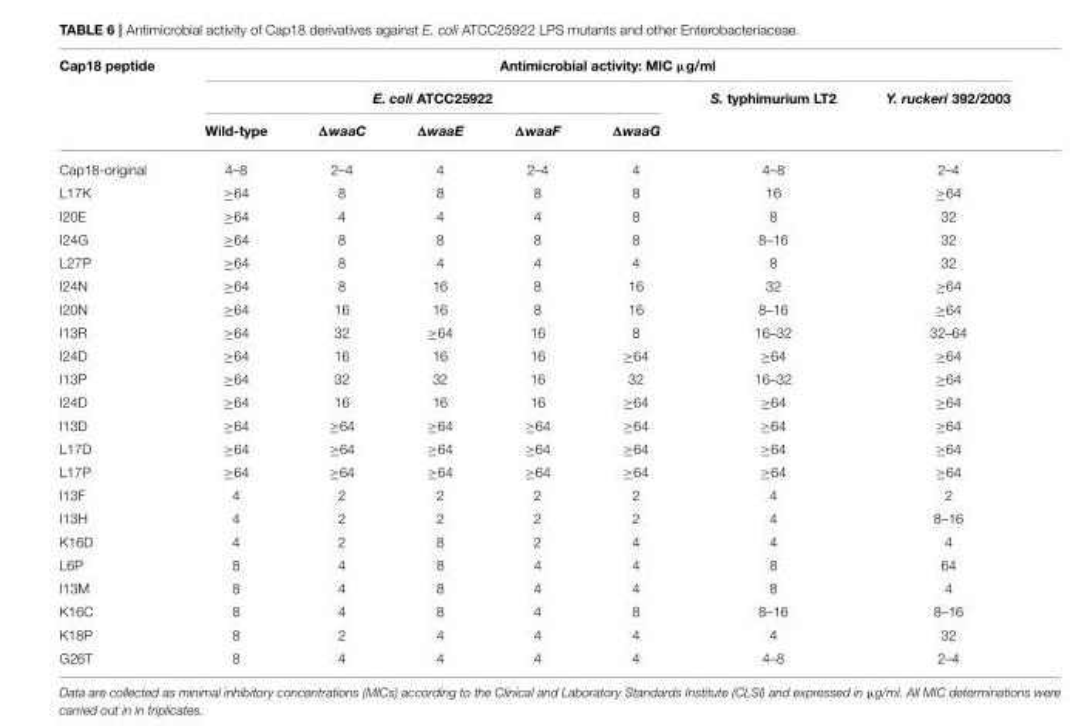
<table><thead><tr><td rowspan="3">Cap18 peptide</td><td colspan="7">Antimicrobial activity: MIC µg/ml</td></tr><tr><td colspan="5">E. coli ATCC25922</td><td rowspan="2">S. typhimurium LT2</td><td rowspan="2">Y. ruckeri 392/2003</td></tr><tr><td>Wild-type</td><td>ΔwaaC</td><td>ΔwaaE</td><td>ΔwaaF</td><td>ΔwaaG</td></tr></thead><tbody><tr><td>Cap18-original</td><td>4–8</td><td>2–4</td><td>4</td><td>2–4</td><td>4</td><td>4–8</td><td>2–4</td></tr><tr><td>L17K</td><td>≥64</td><td>8</td><td>8</td><td>8</td><td>8</td><td>16</td><td>≥64</td></tr><tr><td>I20E</td><td>≥64</td><td>4</td><td>4</td><td>4</td><td>8</td><td>8</td><td>32</td></tr><tr><td>I24G</td><td>≥64</td><td>8</td><td>8</td><td>8</td><td>8</td><td>8–16</td><td>32</td></tr><tr><td>L27P</td><td>≥64</td><td>8</td><td>4</td><td>4</td><td>4</td><td>8</td><td>32</td></tr><tr><td>I24N</td><td>≥64</td><td>8</td><td>16</td><td>8</td><td>16</td><td>32</td><td>≥64</td></tr><tr><td>I20N</td><td>≥64</td><td>16</td><td>16</td><td>8</td><td>16</td><td>8–16</td><td>≥64</td></tr><tr><td>I13R</td><td>≥64</td><td>32</td><td>≥64</td><td>16</td><td>8</td><td>16–32</td><td>32–64</td></tr><tr><td>I24D</td><td>≥64</td><td>16</td><td>16</td><td>16</td><td>≥64</td><td>≥64</td><td>≥64</td></tr><tr><td>I13P</td><td>≥64</td><td>32</td><td>32</td><td>16</td><td>32</td><td>16–32</td><td>≥64</td></tr><tr><td>I24D</td><td>≥64</td><td>16</td><td>16</td><td>16</td><td>≥64</td><td>≥64</td><td>≥64</td></tr><tr><td>I13D</td><td>≥64</td><td>≥64</td><td>≥64</td><td>≥64</td><td>≥64</td><td>≥64</td><td>≥64</td></tr><tr><td>L17D</td><td>≥64</td><td>≥64</td><td>≥64</td><td>≥64</td><td>≥64</td><td>≥64</td><td>≥64</td></tr><tr><td>L17P</td><td>≥64</td><td>≥64</td><td>≥64</td><td>≥64</td><td>≥64</td><td>≥64</td><td>≥64</td></tr><tr><td>I13F</td><td>4</td><td>2</td><td>2</td><td>2</td><td>2</td><td>4</td><td>2</td></tr><tr><td>I13H</td><td>4</td><td>2</td><td>2</td><td>2</td><td>2</td><td>4</td><td>8–16</td></tr><tr><td>K16D</td><td>4</td><td>2</td><td>8</td><td>2</td><td>4</td><td>4</td><td>4</td></tr><tr><td>L6P</td><td>8</td><td>4</td><td>8</td><td>4</td><td>4</td><td>8</td><td>64</td></tr><tr><td>I13M</td><td>8</td><td>4</td><td>8</td><td>4</td><td>4</td><td>8</td><td>4</td></tr><tr><td>K16C</td><td>8</td><td>4</td><td>8</td><td>4</td><td>8</td><td>8–16</td><td>8–16</td></tr><tr><td>K18P</td><td>8</td><td>2</td><td>4</td><td>4</td><td>4</td><td>4</td><td>32</td></tr><tr><td>G26T</td><td>8</td><td>4</td><td>4</td><td>4</td><td>4</td><td>4–8</td><td>2–4</td></tr></tbody></table>